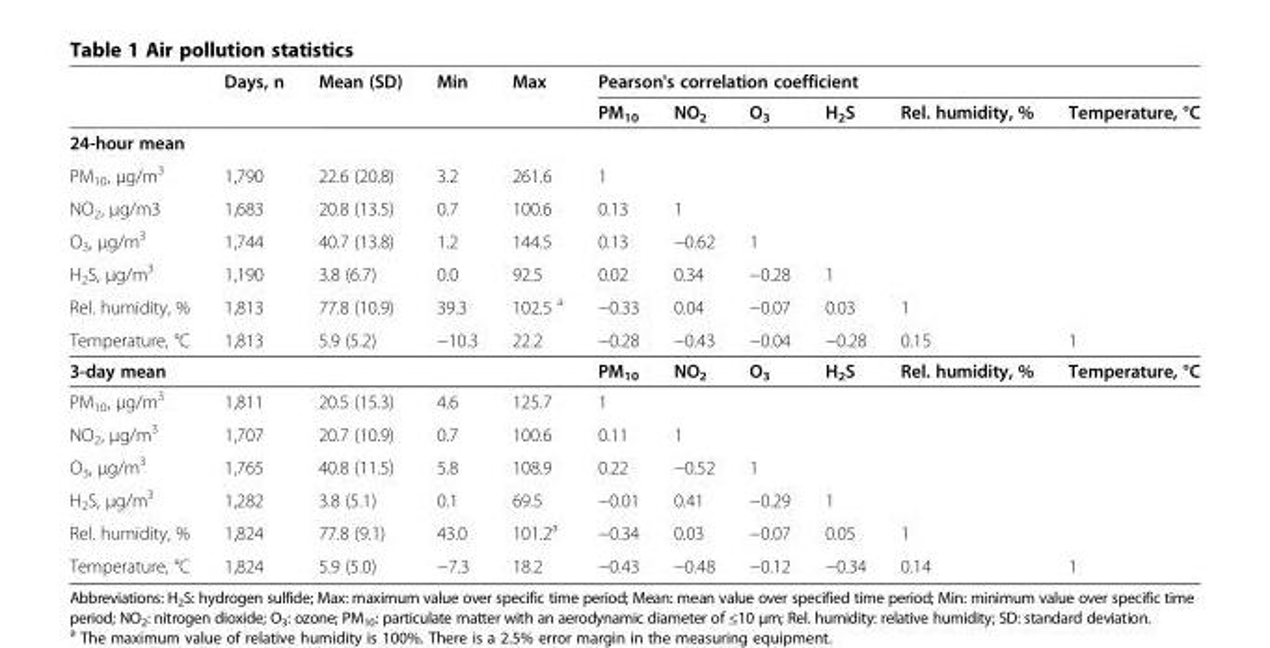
<table><thead><tr><td rowspan="2"></td><td rowspan="2">Days, n</td><td rowspan="2">Mean (SD)</td><td rowspan="2">Min</td><td rowspan="2">Max</td><td colspan="6">Pearson&#x27;s correlation coefficient</td></tr><tr><td>PM<sub>10</sub></td><td>NO<sub>2</sub></td><td>O<sub>3</sub></td><td>H<sub>2</sub>S</td><td>Rel. humidity, %</td><td>Temperature, °C</td></tr></thead><tbody><tr><td colspan="11">24-hour mean</td></tr><tr><td>PM<sub>10</sub>, μg/m<sup>3</sup></td><td>1,790</td><td>22.6 (20.8)</td><td>3.2</td><td>261.6</td><td>1</td><td></td><td></td><td></td><td></td><td></td></tr><tr><td>NO<sub>2</sub>, μg/m3</td><td>1,683</td><td>20.8 (13.5)</td><td>0.7</td><td>100.6</td><td>0.13</td><td>1</td><td></td><td></td><td></td><td></td></tr><tr><td>O<sub>3</sub>, μg/m<sup>3</sup></td><td>1,744</td><td>40.7 (13.8)</td><td>1.2</td><td>144.5</td><td>0.13</td><td>−0.62</td><td>1</td><td></td><td></td><td></td></tr><tr><td>H<sub>2</sub>S, μg/m<sup>3</sup></td><td>1,190</td><td>3.8 (6.7)</td><td>0.0</td><td>92.5</td><td>0.02</td><td>0.34</td><td>−0.28</td><td>1</td><td></td><td></td></tr><tr><td>Rel. humidity, %</td><td>1,813</td><td>77.8 (10.9)</td><td>39.3</td><td>102.5 <sup>a</sup></td><td>−0.33</td><td>0.04</td><td>−0.07</td><td>0.03</td><td>1</td><td></td></tr><tr><td>Temperature, °C</td><td>1,813</td><td>5.9 (5.2)</td><td>−10.3</td><td>22.2</td><td>−0.28</td><td>−0.43</td><td>−0.04</td><td>−0.28</td><td>0.15</td><td>1</td></tr><tr><td>3-day mean</td><td></td><td></td><td></td><td></td><td>PM<sub>10</sub></td><td>NO<sub>2</sub></td><td>O<sub>3</sub></td><td>H<sub>2</sub>S</td><td>Rel. humidity, %</td><td>Temperature, °C</td></tr><tr><td>PM<sub>10</sub>, μg/m<sup>3</sup></td><td>1,811</td><td>20.5 (15.3)</td><td>4.6</td><td>125.7</td><td>1</td><td></td><td></td><td></td><td></td><td></td></tr><tr><td>NO<sub>2</sub>, μg/m<sup>3</sup></td><td>1,707</td><td>20.7 (10.9)</td><td>0.7</td><td>100.6</td><td>0.11</td><td>1</td><td></td><td></td><td></td><td></td></tr><tr><td>O<sub>3</sub>, μg/m<sup>3</sup></td><td>1,765</td><td>40.8 (11.5)</td><td>5.8</td><td>108.9</td><td>0.22</td><td>−0.52</td><td>1</td><td></td><td></td><td></td></tr><tr><td>H<sub>2</sub>S, μg/m<sup>3</sup></td><td>1,282</td><td>3.8 (5.1)</td><td>0.1</td><td>69.5</td><td>−0.01</td><td>0.41</td><td>−0.29</td><td>1</td><td></td><td></td></tr><tr><td>Rel. humidity, %</td><td>1,824</td><td>77.8 (9.1)</td><td>43.0</td><td>101.2<sup>a</sup></td><td>−0.34</td><td>0.03</td><td>−0.07</td><td>0.05</td><td>1</td><td></td></tr><tr><td>Temperature, °C</td><td>1,824</td><td>5.9 (5.0)</td><td>−7.3</td><td>18.2</td><td>−0.43</td><td>−0.48</td><td>−0.12</td><td>−0.34</td><td>0.14</td><td>1</td></tr></tbody></table>